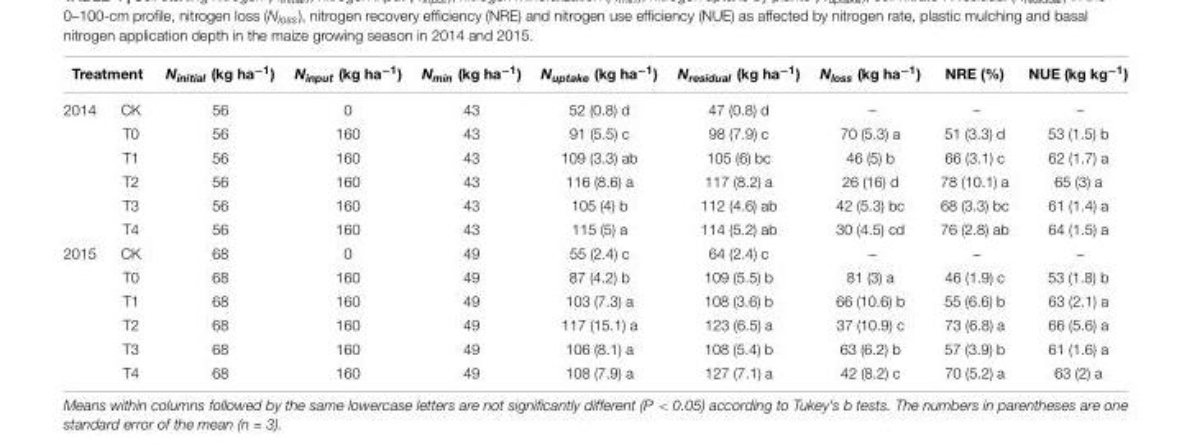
<table><thead><tr><td colspan="2">Treatment</td><td rowspan="2">N<sub>initial</sub> (kg ha<sup>−1</sup>) 56</td><td rowspan="2">N<sub>input</sub> (kg ha<sup>−1</sup>) 0</td><td rowspan="2">N<sub>min</sub> (kg ha<sup>−1</sup>) 43</td><td rowspan="2">N<sub>uptake</sub> (kg ha<sup>−1</sup>) 52 (0.8) d</td><td rowspan="2">N<sub>residual</sub> (kg ha<sup>−1</sup>) 47 (0.8) d</td><td rowspan="2">N<sub>loss</sub> (kg ha<sup>−1</sup>) –</td><td rowspan="2">NRE (%) –</td><td rowspan="2">NUE (kg kg<sup>−1</sup>) –</td></tr><tr><td>2014</td><td>CK</td></tr></thead><tbody><tr><td></td><td>T0</td><td>56</td><td>160</td><td>43</td><td>91 (5.5) c</td><td>98 (7.9) c</td><td>70 (5.3) a</td><td>51 (3.3) d</td><td>53 (1.5) b</td></tr><tr><td></td><td>T1</td><td>56</td><td>160</td><td>43</td><td>109 (3.3) ab</td><td>105 (6) bc</td><td>46 (5) b</td><td>66 (3.1) c</td><td>62 (1.7) a</td></tr><tr><td></td><td>T2</td><td>56</td><td>160</td><td>43</td><td>116 (8.6) a</td><td>117 (8.2) a</td><td>26 (16) d</td><td>78 (10.1) a</td><td>65 (3) a</td></tr><tr><td></td><td>T3</td><td>56</td><td>160</td><td>43</td><td>105 (4) b</td><td>112 (4.6) ab</td><td>42 (5.3) bc</td><td>68 (3.3) bc</td><td>61 (1.4) a</td></tr><tr><td></td><td>T4</td><td>56</td><td>160</td><td>43</td><td>115 (5) a</td><td>114 (5.2) ab</td><td>30 (4.5) cd</td><td>76 (2.8) ab</td><td>64 (1.5) a</td></tr><tr><td rowspan="6">2015</td><td>CK</td><td>68</td><td>0</td><td>49</td><td>55 (2.4) c</td><td>64 (2.4) c</td><td>–</td><td>–</td><td>–</td></tr><tr><td>T0</td><td>68</td><td>160</td><td>49</td><td>87 (4.2) b</td><td>109 (5.5) b</td><td>81 (3) a</td><td>46 (1.9) c</td><td>53 (1.8) b</td></tr><tr><td>T1</td><td>68</td><td>160</td><td>49</td><td>103 (7.3) a</td><td>108 (3.6) b</td><td>66 (10.6) b</td><td>55 (6.6) b</td><td>63 (2.1) a</td></tr><tr><td>T2</td><td>68</td><td>160</td><td>49</td><td>117 (15.1) a</td><td>123 (6.5) a</td><td>37 (10.9) c</td><td>73 (6.8) a</td><td>66 (5.6) a</td></tr><tr><td>T3</td><td>68</td><td>160</td><td>49</td><td>106 (8.1) a</td><td>108 (5.4) b</td><td>63 (6.2) b</td><td>57 (3.9) b</td><td>61 (1.6) a</td></tr><tr><td>T4</td><td>68</td><td>160</td><td>49</td><td>108 (7.9) a</td><td>127 (7.1) a</td><td>42 (8.2) c</td><td>70 (5.2) a</td><td>63 (2) a</td></tr></tbody></table>